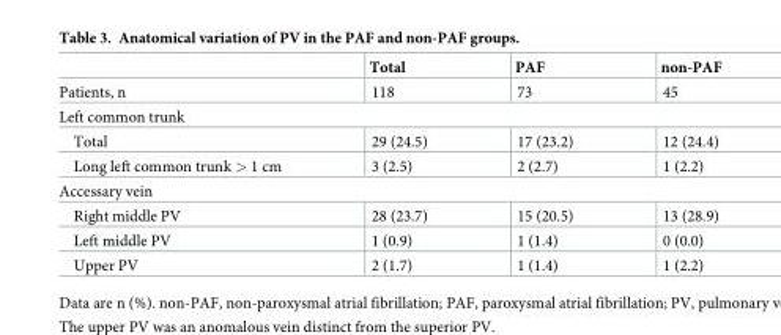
<table><thead><tr><td></td><td>Total</td><td>PAF</td><td>non-PAF</td></tr></thead><tbody><tr><td>Patients, n</td><td>118</td><td>73</td><td>45</td></tr><tr><td colspan="4">Left common trunk</td></tr><tr><td>Total</td><td>29 (24.5)</td><td>17 (23.2)</td><td>12 (24.4)</td></tr><tr><td>Long left common trunk &gt; 1 cm</td><td>3 (2.5)</td><td>2 (2.7)</td><td>1 (2.2)</td></tr><tr><td colspan="4">Accessary vein</td></tr><tr><td>Right middle PV</td><td>28 (23.7)</td><td>15 (20.5)</td><td>13 (28.9)</td></tr><tr><td>Left middle PV</td><td>1 (0.9)</td><td>1 (1.4)</td><td>0 (0.0)</td></tr><tr><td>Upper PV</td><td>2 (1.7)</td><td>1 (1.4)</td><td>1 (2.2)</td></tr></tbody></table>